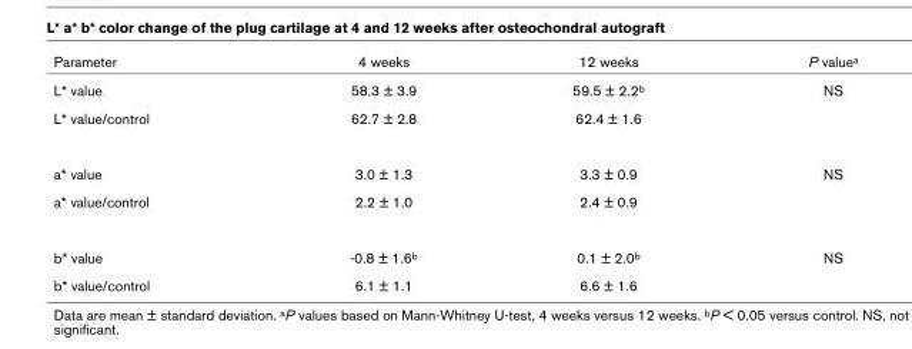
<table><thead><tr><td>Parameter</td><td>4 weeks</td><td>12 weeks</td><td>P value<sup>a</sup></td></tr></thead><tbody><tr><td>L* value</td><td>58.3 ± 3.9</td><td>59.5 ± 2.2<sup>b</sup></td><td>NS</td></tr><tr><td>L* value/control</td><td>62.7 ± 2.8</td><td>62.4 ± 1.6</td><td></td></tr><tr><td>a* value</td><td>3.0 ± 1.3</td><td>3.3 ± 0.9</td><td>NS</td></tr><tr><td>a* value/control</td><td>2.2 ± 1.0</td><td>2.4 ± 0.9</td><td></td></tr><tr><td>b* value</td><td>-0.8 ± 1.6<sup>b</sup></td><td>0.1 ± 2.0<sup>b</sup></td><td>NS</td></tr><tr><td>b* value/control</td><td>6.1 ± 1.1</td><td>6.6 ± 1.6</td><td></td></tr></tbody></table>